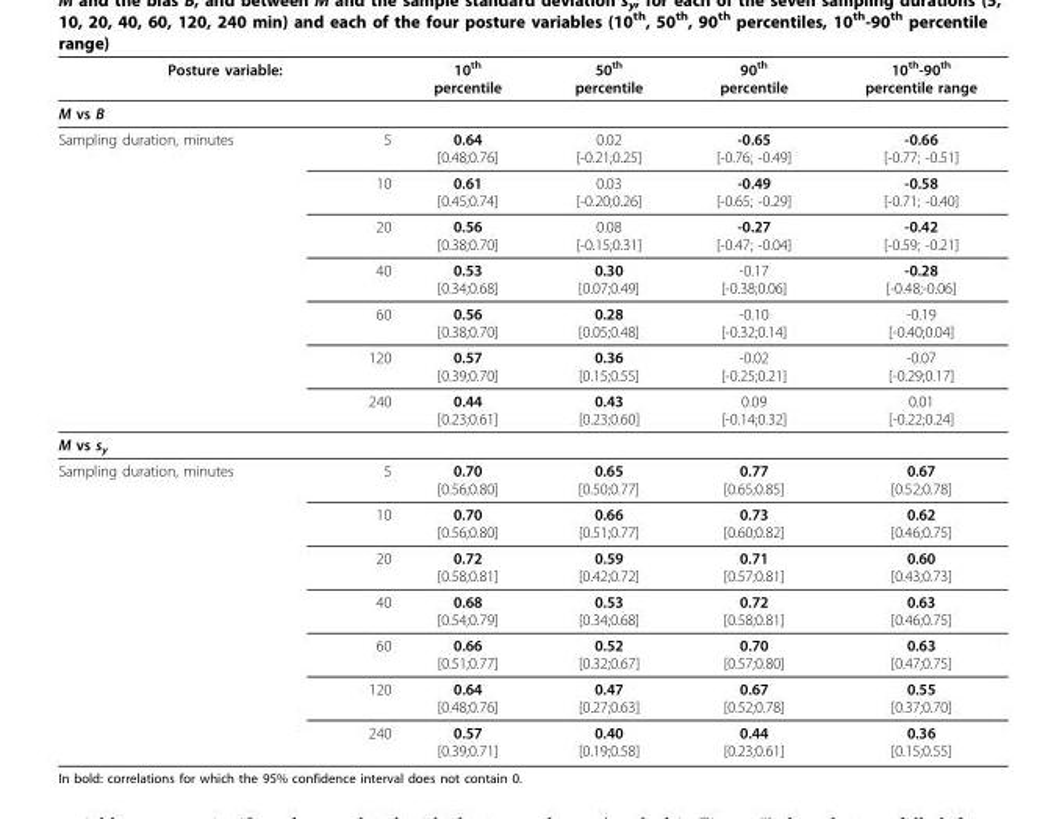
<table><thead><tr><td colspan="2">Posture variable:</td><td rowspan="2">10<sup>th</sup> percentile</td><td rowspan="2">50<sup>th</sup> percentile</td><td rowspan="2">90<sup>th</sup> percentile</td><td rowspan="2">10<sup>th</sup>-90<sup>th</sup> percentile range</td></tr><tr><td>M vs B</td><td></td></tr></thead><tbody><tr><td rowspan="7">Sampling duration, minutes</td><td>5</td><td>0.64 [0.48;0.76]</td><td>0.02 [-0.21;0.25]</td><td>-0.65 [-0.76; -0.49]</td><td>-0.66 [-0.77; -0.51]</td></tr><tr><td>10</td><td>0.61 [0.45;0.74]</td><td>0.03 [-0.20;0.26]</td><td>-0.49 [-0.65; -0.29]</td><td>-0.58 [-0.71; -0.40]</td></tr><tr><td>20</td><td>0.56 [0.38;0.70]</td><td>0.08 [-0.15;0.31]</td><td>-0.27 [-0.47; -0.04]</td><td>-0.42 [-0.59; -0.21]</td></tr><tr><td>40</td><td>0.53 [0.34;0.68]</td><td>0.30 [0.07;0.49]</td><td>-0.17 [-0.38;0.06]</td><td>-0.28 [-0.48;-0.06]</td></tr><tr><td>60</td><td>0.56 [0.38;0.70]</td><td>0.28 [0.05;0.48]</td><td>-0.10 [-0.32;0.14]</td><td>-0.19 [-0.40;0.04]</td></tr><tr><td>120</td><td>0.57 [0.39;0.70]</td><td>0.36 [0.15;0.55]</td><td>-0.02 [-0.25;0.21]</td><td>-0.07 [-0.29;0.17]</td></tr><tr><td>240</td><td>0.44 [0.23;0.61]</td><td>0.43 [0.23;0.60]</td><td>0.09 [-0.14;0.32]</td><td>0.01 [-0.22;0.24]</td></tr><tr><td colspan="6">M vs s<sub>y</sub></td></tr><tr><td rowspan="7">Sampling duration, minutes</td><td>5</td><td>0.70 [0.56;0.80]</td><td>0.65 [0.50;0.77]</td><td>0.77 [0.65;0.85]</td><td>0.67 [0.52;0.78]</td></tr><tr><td>10</td><td>0.70 [0.56;0.80]</td><td>0.66 [0.51;0.77]</td><td>0.73 [0.60;0.82]</td><td>0.62 [0.46;0.75]</td></tr><tr><td>20</td><td>0.72 [0.58;0.81]</td><td>0.59 [0.42;0.72]</td><td>0.71 [0.57;0.81]</td><td>0.60 [0.43;0.73]</td></tr><tr><td>40</td><td>0.68 [0.54;0.79]</td><td>0.53 [0.34;0.68]</td><td>0.72 [0.58;0.81]</td><td>0.63 [0.46;0.75]</td></tr><tr><td>60</td><td>0.66 [0.51;0.77]</td><td>0.52 [0.32;0.67]</td><td>0.70 [0.57;0.80]</td><td>0.63 [0.47;0.75]</td></tr><tr><td>120</td><td>0.64 [0.48;0.76]</td><td>0.47 [0.27;0.63]</td><td>0.67 [0.52;0.78]</td><td>0.55 [0.37;0.70]</td></tr><tr><td>240</td><td>0.57 [0.39;0.71]</td><td>0.40 [0.19;0.58]</td><td>0.44 [0.23;0.61]</td><td>0.36 [0.15;0.55]</td></tr></tbody></table>